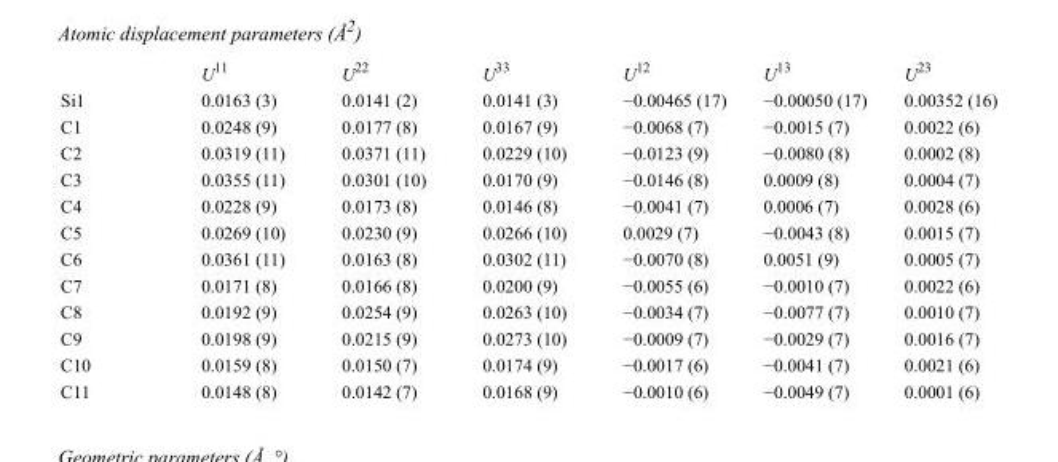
<table><thead><tr><td></td><td>U<sup>11</sup></td><td>U<sup>22</sup></td><td>U<sup>33</sup></td><td>U<sup>12</sup></td><td>U<sup>13</sup></td><td>U<sup>23</sup></td></tr></thead><tbody><tr><td>Si1</td><td>0.0163 (3)</td><td>0.0141 (2)</td><td>0.0141 (3)</td><td>−0.00465 (17)</td><td>−0.00050 (17)</td><td>0.00352 (16)</td></tr><tr><td>C1</td><td>0.0248 (9)</td><td>0.0177 (8)</td><td>0.0167 (9)</td><td>−0.0068 (7)</td><td>−0.0015 (7)</td><td>0.0022 (6)</td></tr><tr><td>C2</td><td>0.0319 (11)</td><td>0.0371 (11)</td><td>0.0229 (10)</td><td>−0.0123 (9)</td><td>−0.0080 (8)</td><td>0.0002 (8)</td></tr><tr><td>C3</td><td>0.0355 (11)</td><td>0.0301 (10)</td><td>0.0170 (9)</td><td>−0.0146 (8)</td><td>0.0009 (8)</td><td>0.0004 (7)</td></tr><tr><td>C4</td><td>0.0228 (9)</td><td>0.0173 (8)</td><td>0.0146 (8)</td><td>−0.0041 (7)</td><td>0.0006 (7)</td><td>0.0028 (6)</td></tr><tr><td>C5</td><td>0.0269 (10)</td><td>0.0230 (9)</td><td>0.0266 (10)</td><td>0.0029 (7)</td><td>−0.0043 (8)</td><td>0.0015 (7)</td></tr><tr><td>C6</td><td>0.0361 (11)</td><td>0.0163 (8)</td><td>0.0302 (11)</td><td>−0.0070 (8)</td><td>0.0051 (9)</td><td>0.0005 (7)</td></tr><tr><td>C7</td><td>0.0171 (8)</td><td>0.0166 (8)</td><td>0.0200 (9)</td><td>−0.0055 (6)</td><td>−0.0010 (7)</td><td>0.0022 (6)</td></tr><tr><td>C8</td><td>0.0192 (9)</td><td>0.0254 (9)</td><td>0.0263 (10)</td><td>−0.0034 (7)</td><td>−0.0077 (7)</td><td>0.0010 (7)</td></tr><tr><td>C9</td><td>0.0198 (9)</td><td>0.0215 (9)</td><td>0.0273 (10)</td><td>−0.0009 (7)</td><td>−0.0029 (7)</td><td>0.0016 (7)</td></tr><tr><td>C10</td><td>0.0159 (8)</td><td>0.0150 (7)</td><td>0.0174 (9)</td><td>−0.0017 (6)</td><td>−0.0041 (7)</td><td>0.0021 (6)</td></tr><tr><td>C11</td><td>0.0148 (8)</td><td>0.0142 (7)</td><td>0.0168 (9)</td><td>−0.0010 (6)</td><td>−0.0049 (7)</td><td>0.0001 (6)</td></tr></tbody></table>